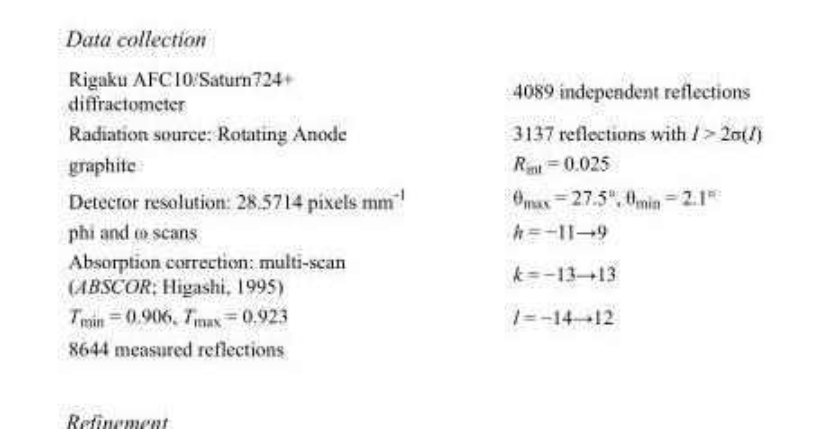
<table><tbody><tr><td>Rigaku AFC10/Saturn724+ diffractometer</td><td>4089 independent reflections</td></tr><tr><td>Radiation source: Rotating Anode</td><td>3137 reflections with I &gt; 2σ(I)</td></tr><tr><td>graphite</td><td>R<sub>int</sub> = 0.025</td></tr><tr><td>Detector resolution: 28.5714 pixels mm<sup>-1</sup></td><td>θ<sub>max</sub> = 27.5°, θ<sub>min</sub> = 2.1°</td></tr><tr><td>phi and ω scans</td><td>h = −11→9</td></tr><tr><td>Absorption correction: multi-scan (ABSCOR; Higashi, 1995)</td><td>k = −13→13</td></tr><tr><td>T<sub>min</sub> = 0.906, T<sub>max</sub> = 0.923</td><td>l = −14→12</td></tr><tr><td>8644 measured reflections</td><td></td></tr></tbody></table>